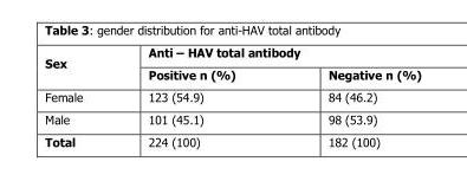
<table><thead><tr><td rowspan="2">Sex</td><td colspan="2">Anti – HAV total antibody</td></tr><tr><td>Positive n (%)</td><td>Negative n (%)</td></tr></thead><tbody><tr><td>Female</td><td>123 (54.9)</td><td>84 (46.2)</td></tr><tr><td>Male</td><td>101 (45.1)</td><td>98 (53.9)</td></tr><tr><td>Total</td><td>224 (100)</td><td>182 (100)</td></tr></tbody></table>